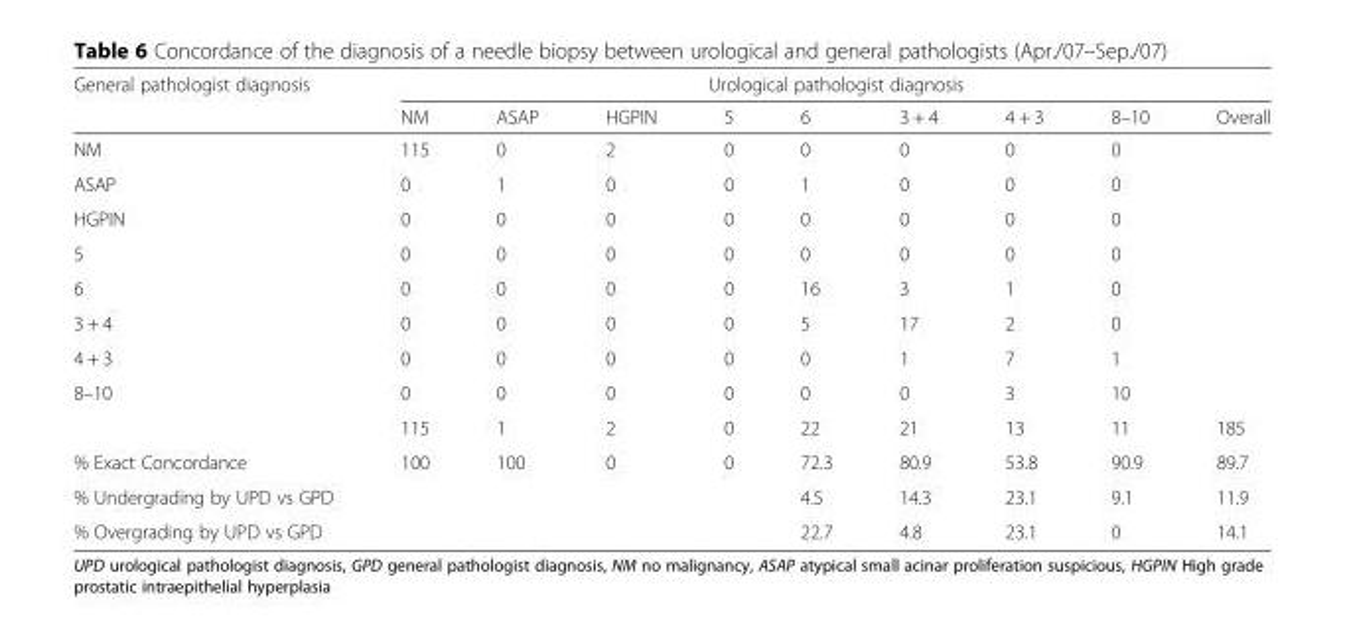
<table><thead><tr><td rowspan="2">General pathologist diagnosis</td><td colspan="9">Urological pathologist diagnosis</td></tr><tr><td>NM</td><td>ASAP</td><td>HGPIN</td><td>5</td><td>6</td><td>3 + 4</td><td>4 + 3</td><td>8–10</td><td>Overall</td></tr></thead><tbody><tr><td>NM</td><td>115</td><td>0</td><td>2</td><td>0</td><td>0</td><td>0</td><td>0</td><td>0</td><td></td></tr><tr><td>ASAP</td><td>0</td><td>1</td><td>0</td><td>0</td><td>1</td><td>0</td><td>0</td><td>0</td><td></td></tr><tr><td>HGPIN</td><td>0</td><td>0</td><td>0</td><td>0</td><td>0</td><td>0</td><td>0</td><td>0</td><td></td></tr><tr><td>5</td><td>0</td><td>0</td><td>0</td><td>0</td><td>0</td><td>0</td><td>0</td><td>0</td><td></td></tr><tr><td>6</td><td>0</td><td>0</td><td>0</td><td>0</td><td>16</td><td>3</td><td>1</td><td>0</td><td></td></tr><tr><td>3 + 4</td><td>0</td><td>0</td><td>0</td><td>0</td><td>5</td><td>17</td><td>2</td><td>0</td><td></td></tr><tr><td>4 + 3</td><td>0</td><td>0</td><td>0</td><td>0</td><td>0</td><td>1</td><td>7</td><td>1</td><td></td></tr><tr><td rowspan="2">8–10</td><td>0</td><td>0</td><td>0</td><td>0</td><td>0</td><td>0</td><td>3</td><td>10</td><td></td></tr><tr><td>115</td><td>1</td><td>2</td><td>0</td><td>22</td><td>21</td><td>13</td><td>11</td><td>185</td></tr><tr><td>% Exact Concordance</td><td>100</td><td>100</td><td>0</td><td>0</td><td>72.3</td><td>80.9</td><td>53.8</td><td>90.9</td><td>89.7</td></tr><tr><td>% Undergrading by UPD vs GPD</td><td></td><td></td><td></td><td></td><td>4.5</td><td>14.3</td><td>23.1</td><td>9.1</td><td>11.9</td></tr><tr><td>% Overgrading by UPD vs GPD</td><td></td><td></td><td></td><td></td><td>22.7</td><td>4.8</td><td>23.1</td><td>0</td><td>14.1</td></tr></tbody></table>